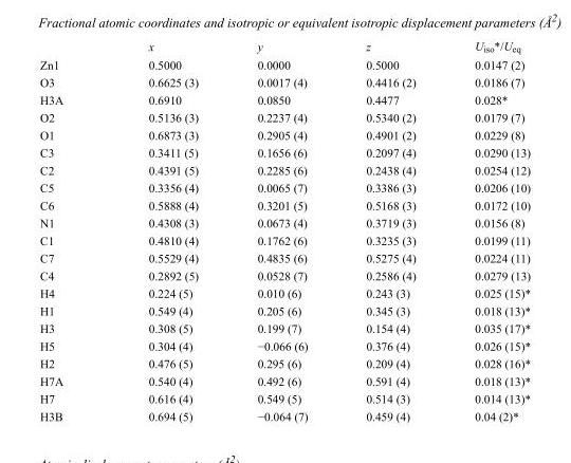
<table><thead><tr><td></td><td>x</td><td>y</td><td>z</td><td>U<sub>iso</sub>*/U<sub>eq</sub></td></tr></thead><tbody><tr><td>Zn1</td><td>0.5000</td><td>0.0000</td><td>0.5000</td><td>0.0147 (2)</td></tr><tr><td>O3</td><td>0.6625 (3)</td><td>0.0017 (4)</td><td>0.4416 (2)</td><td>0.0186 (7)</td></tr><tr><td>H3A</td><td>0.6910</td><td>0.0850</td><td>0.4477</td><td>0.028*</td></tr><tr><td>O2</td><td>0.5136 (3)</td><td>0.2237 (4)</td><td>0.5340 (2)</td><td>0.0179 (7)</td></tr><tr><td>O1</td><td>0.6873 (3)</td><td>0.2905 (4)</td><td>0.4901 (2)</td><td>0.0229 (8)</td></tr><tr><td>C3</td><td>0.3411 (5)</td><td>0.1656 (6)</td><td>0.2097 (4)</td><td>0.0290 (13)</td></tr><tr><td>C2</td><td>0.4391 (5)</td><td>0.2285 (6)</td><td>0.2438 (4)</td><td>0.0254 (12)</td></tr><tr><td>C5</td><td>0.3356 (4)</td><td>0.0065 (7)</td><td>0.3386 (3)</td><td>0.0206 (10)</td></tr><tr><td>C6</td><td>0.5888 (4)</td><td>0.3201 (5)</td><td>0.5168 (3)</td><td>0.0172 (10)</td></tr><tr><td>N1</td><td>0.4308 (3)</td><td>0.0673 (4)</td><td>0.3719 (3)</td><td>0.0156 (8)</td></tr><tr><td>C1</td><td>0.4810 (4)</td><td>0.1762 (6)</td><td>0.3235 (3)</td><td>0.0199 (11)</td></tr><tr><td>C7</td><td>0.5529 (4)</td><td>0.4835 (6)</td><td>0.5275 (4)</td><td>0.0224 (11)</td></tr><tr><td>C4</td><td>0.2892 (5)</td><td>0.0528 (7)</td><td>0.2586 (4)</td><td>0.0279 (13)</td></tr><tr><td>H4</td><td>0.224 (5)</td><td>0.010 (6)</td><td>0.243 (3)</td><td>0.025 (15)*</td></tr><tr><td>H1</td><td>0.549 (4)</td><td>0.205 (6)</td><td>0.345 (3)</td><td>0.018 (13)*</td></tr><tr><td>H3</td><td>0.308 (5)</td><td>0.199 (7)</td><td>0.154 (4)</td><td>0.035 (17)*</td></tr><tr><td>H5</td><td>0.304 (4)</td><td>−0.066 (6)</td><td>0.376 (4)</td><td>0.026 (15)*</td></tr><tr><td>H2</td><td>0.476 (5)</td><td>0.295 (6)</td><td>0.209 (4)</td><td>0.028 (16)*</td></tr><tr><td>H7A</td><td>0.540 (4)</td><td>0.492 (6)</td><td>0.591 (4)</td><td>0.018 (13)*</td></tr><tr><td>H7</td><td>0.616 (4)</td><td>0.549 (5)</td><td>0.514 (3)</td><td>0.014 (13)*</td></tr><tr><td>H3B</td><td>0.694 (5)</td><td>−0.064 (7)</td><td>0.459 (4)</td><td>0.04 (2)*</td></tr></tbody></table>